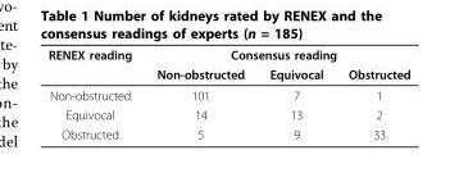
<table><thead><tr><td rowspan="2">RENEX reading</td><td colspan="3">Consensus reading</td></tr><tr><td>Non-obstructed</td><td>Equivocal</td><td>Obstructed</td></tr></thead><tbody><tr><td>Non-obstructed</td><td>101</td><td>7</td><td>1</td></tr><tr><td>Equivocal</td><td>14</td><td>13</td><td>2</td></tr><tr><td>Obstructed</td><td>5</td><td>9</td><td>33</td></tr></tbody></table>